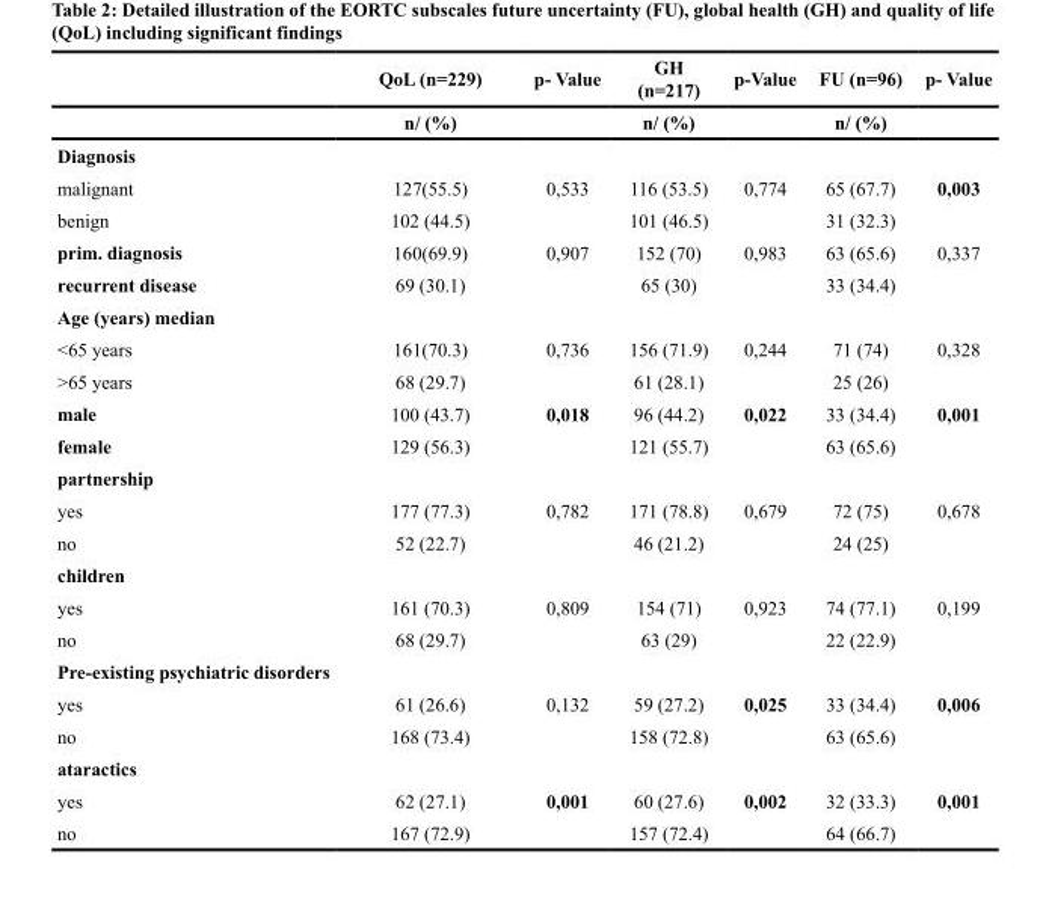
<table><thead><tr><td rowspan="2"></td><td rowspan="2">QoL (n=229) n/ (%)</td><td rowspan="2">p- Value</td><td rowspan="2">GH (n=217) n/ (%)</td><td rowspan="2">p-Value</td><td rowspan="2">FU (n=96) n/ (%)</td><td rowspan="2">p- Value</td></tr><tr></tr></thead><tbody><tr><td colspan="7">Diagnosis</td></tr><tr><td>malignant</td><td>127(55.5)</td><td>0,533</td><td>116 (53.5)</td><td>0,774</td><td>65 (67.7)</td><td>0,003</td></tr><tr><td>benign</td><td>102 (44.5)</td><td></td><td>101 (46.5)</td><td></td><td>31 (32.3)</td><td></td></tr><tr><td>prim. diagnosis</td><td>160(69.9)</td><td>0,907</td><td>152 (70)</td><td>0,983</td><td>63 (65.6)</td><td>0,337</td></tr><tr><td>recurrent disease</td><td>69 (30.1)</td><td></td><td>65 (30)</td><td></td><td>33 (34.4)</td><td></td></tr><tr><td colspan="7">Age (years) median</td></tr><tr><td>&lt;65 years</td><td>161(70.3)</td><td>0,736</td><td>156 (71.9)</td><td>0,244</td><td>71 (74)</td><td>0,328</td></tr><tr><td>&gt;65 years</td><td>68 (29.7)</td><td></td><td>61 (28.1)</td><td></td><td>25 (26)</td><td></td></tr><tr><td>male</td><td>100 (43.7)</td><td>0,018</td><td>96 (44.2)</td><td>0,022</td><td>33 (34.4)</td><td>0,001</td></tr><tr><td>female</td><td>129 (56.3)</td><td></td><td>121 (55.7)</td><td></td><td>63 (65.6)</td><td></td></tr><tr><td colspan="7">partnership</td></tr><tr><td>yes</td><td>177 (77.3)</td><td>0,782</td><td>171 (78.8)</td><td>0,679</td><td>72 (75)</td><td>0,678</td></tr><tr><td>no</td><td>52 (22.7)</td><td></td><td>46 (21.2)</td><td></td><td>24 (25)</td><td></td></tr><tr><td colspan="7">children</td></tr><tr><td>yes</td><td>161 (70.3)</td><td>0,809</td><td>154 (71)</td><td>0,923</td><td>74 (77.1)</td><td>0,199</td></tr><tr><td>no</td><td>68 (29.7)</td><td></td><td>63 (29)</td><td></td><td>22 (22.9)</td><td></td></tr><tr><td colspan="7">Pre-existing psychiatric disorders</td></tr><tr><td>yes</td><td>61 (26.6)</td><td>0,132</td><td>59 (27.2)</td><td>0,025</td><td>33 (34.4)</td><td>0,006</td></tr><tr><td>no</td><td>168 (73.4)</td><td></td><td>158 (72.8)</td><td></td><td>63 (65.6)</td><td></td></tr><tr><td colspan="7">ataractics</td></tr><tr><td>yes</td><td>62 (27.1)</td><td>0,001</td><td>60 (27.6)</td><td>0,002</td><td>32 (33.3)</td><td>0,001</td></tr><tr><td>no</td><td>167 (72.9)</td><td></td><td>157 (72.4)</td><td></td><td>64 (66.7)</td><td></td></tr></tbody></table>